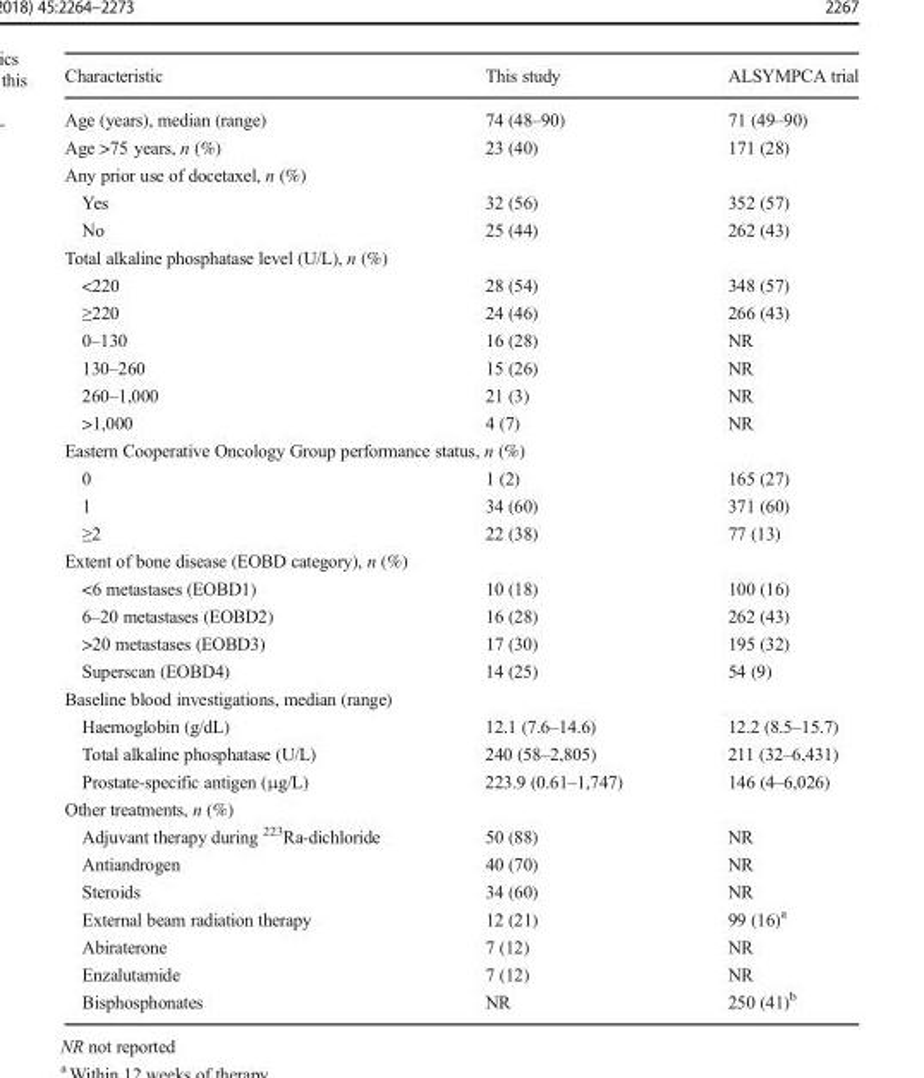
<table><thead><tr><td>Characteristic</td><td>This study</td><td>ALSYMPCA trial</td></tr></thead><tbody><tr><td>Age (years), median (range)</td><td>74 (48–90)</td><td>71 (49–90)</td></tr><tr><td>Age &gt;75 years, n (%)</td><td>23 (40)</td><td>171 (28)</td></tr><tr><td colspan="3">Any prior use of docetaxel, n (%)</td></tr><tr><td>Yes</td><td>32 (56)</td><td>352 (57)</td></tr><tr><td>No</td><td>25 (44)</td><td>262 (43)</td></tr><tr><td colspan="3">Total alkaline phosphatase level (U/L), n (%)</td></tr><tr><td>&lt;220</td><td>28 (54)</td><td>348 (57)</td></tr><tr><td>≥220</td><td>24 (46)</td><td>266 (43)</td></tr><tr><td>0–130</td><td>16 (28)</td><td>NR</td></tr><tr><td>130–260</td><td>15 (26)</td><td>NR</td></tr><tr><td>260–1,000</td><td>21 (3)</td><td>NR</td></tr><tr><td>&gt;1,000</td><td>4 (7)</td><td>NR</td></tr><tr><td colspan="3">Eastern Cooperative Oncology Group performance status, n (%)</td></tr><tr><td>0</td><td>1 (2)</td><td>165 (27)</td></tr><tr><td>1</td><td>34 (60)</td><td>371 (60)</td></tr><tr><td>≥2</td><td>22 (38)</td><td>77 (13)</td></tr><tr><td colspan="3">Extent of bone disease (EOBD category), n (%)</td></tr><tr><td>&lt;6 metastases (EOBD1)</td><td>10 (18)</td><td>100 (16)</td></tr><tr><td>6–20 metastases (EOBD2)</td><td>16 (28)</td><td>262 (43)</td></tr><tr><td>&gt;20 metastases (EOBD3)</td><td>17 (30)</td><td>195 (32)</td></tr><tr><td>Superscan (EOBD4)</td><td>14 (25)</td><td>54 (9)</td></tr><tr><td colspan="3">Baseline blood investigations, median (range)</td></tr><tr><td>Haemoglobin (g/dL)</td><td>12.1 (7.6–14.6)</td><td>12.2 (8.5–15.7)</td></tr><tr><td>Total alkaline phosphatase (U/L)</td><td>240 (58–2,805)</td><td>211 (32–6,431)</td></tr><tr><td>Prostate-specific antigen (μg/L)</td><td>223.9 (0.61–1,747)</td><td>146 (4–6,026)</td></tr><tr><td colspan="3">Other treatments, n (%)</td></tr><tr><td>Adjuvant therapy during <sup>223</sup>Ra-dichloride</td><td>50 (88)</td><td>NR</td></tr><tr><td>Antiandrogen</td><td>40 (70)</td><td>NR</td></tr><tr><td>Steroids</td><td>34 (60)</td><td>NR</td></tr><tr><td>External beam radiation therapy</td><td>12 (21)</td><td>99 (16)<sup>a</sup></td></tr><tr><td>Abiraterone</td><td>7 (12)</td><td>NR</td></tr><tr><td>Enzalutamide</td><td>7 (12)</td><td>NR</td></tr><tr><td>Bisphosphonates</td><td>NR</td><td>250 (41)<sup>b</sup></td></tr></tbody></table>